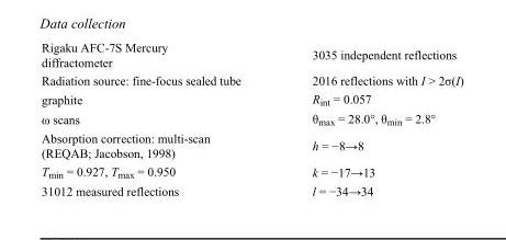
<table><tbody><tr><td>Rigaku AFC-7S Mercury diffractometer</td><td>3035 independent reflections</td></tr><tr><td>Radiation source: fine-focus sealed tube</td><td>2016 reflections with I &gt; 2σ(I)</td></tr><tr><td>graphite</td><td>R<sub>int</sub> = 0.057</td></tr><tr><td>ω scans</td><td>θ<sub>max</sub> = 28.0°, θ<sub>min</sub> = 2.8°</td></tr><tr><td>Absorption correction: multi-scan (REQAB; Jacobson, 1998)</td><td>h = −8→8</td></tr><tr><td>T<sub>min</sub> = 0.927, T<sub>max</sub> = 0.950</td><td>k = −17→13</td></tr><tr><td>31012 measured reflections</td><td>l = −34→34</td></tr></tbody></table>